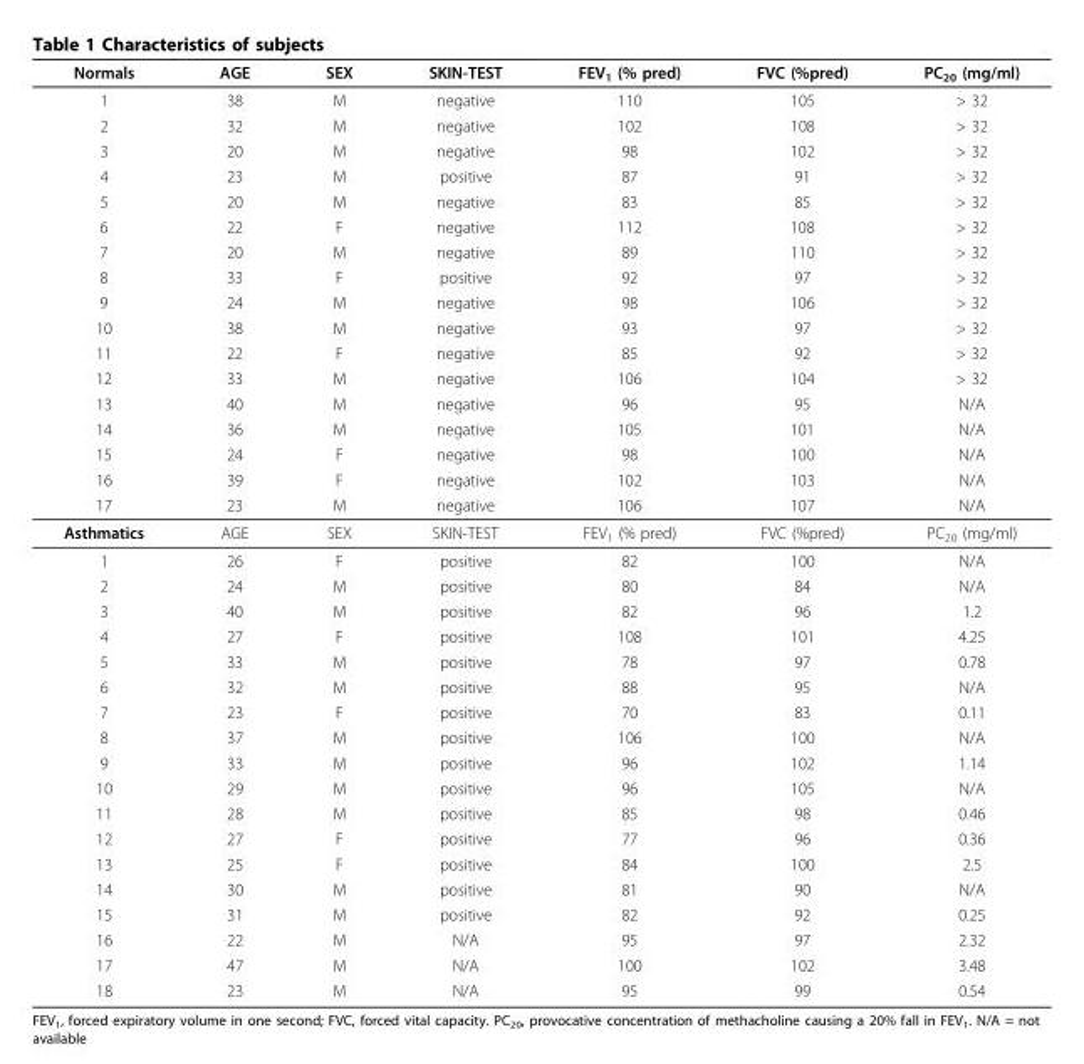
<table><thead><tr><td>Normals</td><td>AGE</td><td>SEX</td><td>SKIN-TEST</td><td>FEV<sub>1</sub> (% pred)</td><td>FVC (%pred)</td><td>PC<sub>20</sub> (mg/ml)</td></tr></thead><tbody><tr><td>1</td><td>38</td><td>M</td><td>negative</td><td>110</td><td>105</td><td>&gt; 32</td></tr><tr><td>2</td><td>32</td><td>M</td><td>negative</td><td>102</td><td>108</td><td>&gt; 32</td></tr><tr><td>3</td><td>20</td><td>M</td><td>negative</td><td>98</td><td>102</td><td>&gt; 32</td></tr><tr><td>4</td><td>23</td><td>M</td><td>positive</td><td>87</td><td>91</td><td>&gt; 32</td></tr><tr><td>5</td><td>20</td><td>M</td><td>negative</td><td>83</td><td>85</td><td>&gt; 32</td></tr><tr><td>6</td><td>22</td><td>F</td><td>negative</td><td>112</td><td>108</td><td>&gt; 32</td></tr><tr><td>7</td><td>20</td><td>M</td><td>negative</td><td>89</td><td>110</td><td>&gt; 32</td></tr><tr><td>8</td><td>33</td><td>F</td><td>positive</td><td>92</td><td>97</td><td>&gt; 32</td></tr><tr><td>9</td><td>24</td><td>M</td><td>negative</td><td>98</td><td>106</td><td>&gt; 32</td></tr><tr><td>10</td><td>38</td><td>M</td><td>negative</td><td>93</td><td>97</td><td>&gt; 32</td></tr><tr><td>11</td><td>22</td><td>F</td><td>negative</td><td>85</td><td>92</td><td>&gt; 32</td></tr><tr><td>12</td><td>33</td><td>M</td><td>negative</td><td>106</td><td>104</td><td>&gt; 32</td></tr><tr><td>13</td><td>40</td><td>M</td><td>negative</td><td>96</td><td>95</td><td>N/A</td></tr><tr><td>14</td><td>36</td><td>M</td><td>negative</td><td>105</td><td>101</td><td>N/A</td></tr><tr><td>15</td><td>24</td><td>F</td><td>negative</td><td>98</td><td>100</td><td>N/A</td></tr><tr><td>16</td><td>39</td><td>F</td><td>negative</td><td>102</td><td>103</td><td>N/A</td></tr><tr><td>17</td><td>23</td><td>M</td><td>negative</td><td>106</td><td>107</td><td>N/A</td></tr><tr><td>Asthmatics</td><td>AGE</td><td>SEX</td><td>SKIN-TEST</td><td>FEV<sub>1</sub> (% pred)</td><td>FVC (%pred)</td><td>PC<sub>20</sub> (mg/ml)</td></tr><tr><td>1</td><td>26</td><td>F</td><td>positive</td><td>82</td><td>100</td><td>N/A</td></tr><tr><td>2</td><td>24</td><td>M</td><td>positive</td><td>80</td><td>84</td><td>N/A</td></tr><tr><td>3</td><td>40</td><td>M</td><td>positive</td><td>82</td><td>96</td><td>1.2</td></tr><tr><td>4</td><td>27</td><td>F</td><td>positive</td><td>108</td><td>101</td><td>4.25</td></tr><tr><td>5</td><td>33</td><td>M</td><td>positive</td><td>78</td><td>97</td><td>0.78</td></tr><tr><td>6</td><td>32</td><td>M</td><td>positive</td><td>88</td><td>95</td><td>N/A</td></tr><tr><td>7</td><td>23</td><td>F</td><td>positive</td><td>70</td><td>83</td><td>0.11</td></tr><tr><td>8</td><td>37</td><td>M</td><td>positive</td><td>106</td><td>100</td><td>N/A</td></tr><tr><td>9</td><td>33</td><td>M</td><td>positive</td><td>96</td><td>102</td><td>1.14</td></tr><tr><td>10</td><td>29</td><td>M</td><td>positive</td><td>96</td><td>105</td><td>N/A</td></tr><tr><td>11</td><td>28</td><td>M</td><td>positive</td><td>85</td><td>98</td><td>0.46</td></tr><tr><td>12</td><td>27</td><td>F</td><td>positive</td><td>77</td><td>96</td><td>0.36</td></tr><tr><td>13</td><td>25</td><td>F</td><td>positive</td><td>84</td><td>100</td><td>2.5</td></tr><tr><td>14</td><td>30</td><td>M</td><td>positive</td><td>81</td><td>90</td><td>N/A</td></tr><tr><td>15</td><td>31</td><td>M</td><td>positive</td><td>82</td><td>92</td><td>0.25</td></tr><tr><td>16</td><td>22</td><td>M</td><td>N/A</td><td>95</td><td>97</td><td>2.32</td></tr><tr><td>17</td><td>47</td><td>M</td><td>N/A</td><td>100</td><td>102</td><td>3.48</td></tr><tr><td>18</td><td>23</td><td>M</td><td>N/A</td><td>95</td><td>99</td><td>0.54</td></tr></tbody></table>